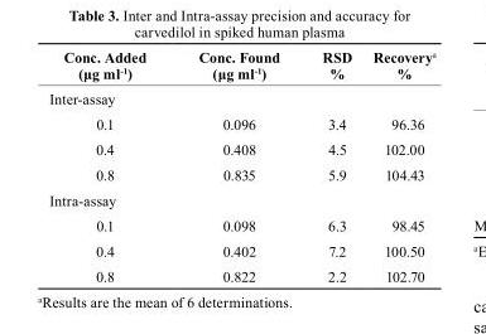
<table><thead><tr><td>Conc. Added (μg ml<sup>-1</sup>)</td><td>Conc. Found (μg ml<sup>-1</sup>)</td><td>rSd %</td><td>recovery<sup>a</sup> %</td></tr></thead><tbody><tr><td colspan="4">Inter‑assay</td></tr><tr><td>0.1</td><td>0.096</td><td>3.4</td><td>96.36</td></tr><tr><td>0.4</td><td>0.408</td><td>4.5</td><td>102.00</td></tr><tr><td>0.8</td><td>0.835</td><td>5.9</td><td>104.43</td></tr><tr><td colspan="4">Intra‑assay</td></tr><tr><td>0.1</td><td>0.098</td><td>6.3</td><td>98.45</td></tr><tr><td>0.4</td><td>0.402</td><td>7.2</td><td>100.50</td></tr><tr><td>0.8</td><td>0.822</td><td>2.2</td><td>102.70</td></tr></tbody></table>